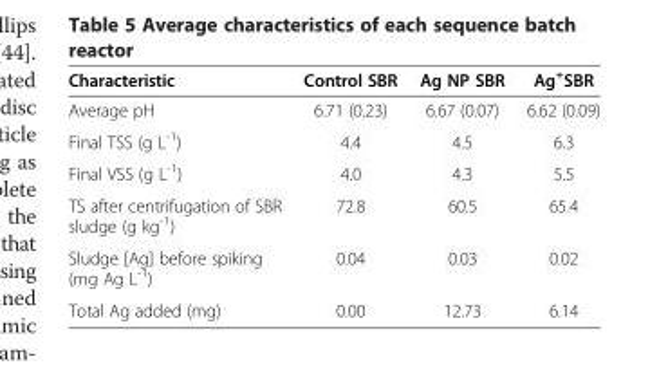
<table><thead><tr><td>Characteristic</td><td>Control SBR</td><td>Ag NP SBR</td><td>Ag<sup>+</sup>SBR</td></tr></thead><tbody><tr><td>Average pH</td><td>6.71 (0.23)</td><td>6.67 (0.07)</td><td>6.62 (0.09)</td></tr><tr><td>Final TSS (g L<sup>-1</sup>)</td><td>4.4</td><td>4.5</td><td>6.3</td></tr><tr><td>Final VSS (g L<sup>-1</sup>)</td><td>4.0</td><td>4.3</td><td>5.5</td></tr><tr><td>TS after centrifugation of SBR sludge (g kg<sup>-1</sup>)</td><td>72.8</td><td>60.5</td><td>65.4</td></tr><tr><td>Sludge [Ag] before spiking (mg Ag L<sup>-1</sup>)</td><td>0.04</td><td>0.03</td><td>0.02</td></tr><tr><td>Total Ag added (mg)</td><td>0.00</td><td>12.73</td><td>6.14</td></tr></tbody></table>